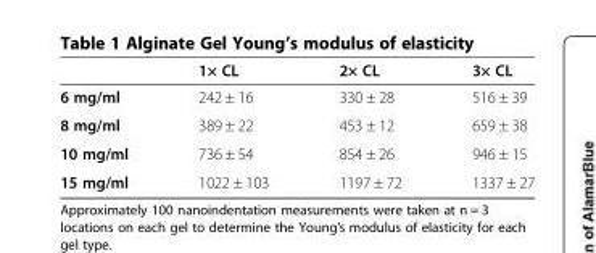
<table><thead><tr><td></td><td>1× CL</td><td>2× CL</td><td>3× CL</td></tr></thead><tbody><tr><td>6 mg/ml</td><td>242 ± 16</td><td>330 ± 28</td><td>516 ± 39</td></tr><tr><td>8 mg/ml</td><td>389 ± 22</td><td>453 ± 12</td><td>659 ± 38</td></tr><tr><td>10 mg/ml</td><td>736 ± 54</td><td>854 ± 26</td><td>946 ± 15</td></tr><tr><td>15 mg/ml</td><td>1022 ± 103</td><td>1197 ± 72</td><td>1337 ± 27</td></tr></tbody></table>